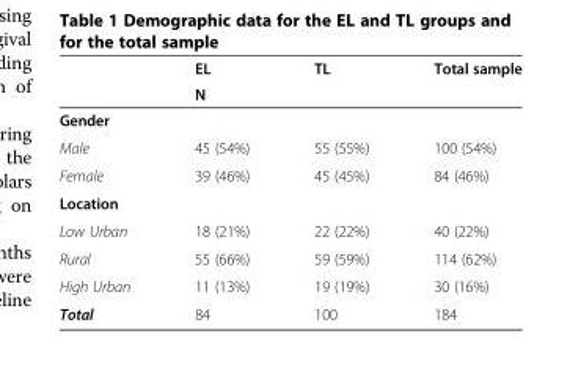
<table><thead><tr><td rowspan="2"></td><td>EL</td><td>TL</td><td>Total sample</td></tr><tr><td colspan="3">N</td></tr></thead><tbody><tr><td colspan="4">Gender</td></tr><tr><td>Male</td><td>45 (54%)</td><td>55 (55%)</td><td>100 (54%)</td></tr><tr><td>Female</td><td>39 (46%)</td><td>45 (45%)</td><td>84 (46%)</td></tr><tr><td colspan="4">Location</td></tr><tr><td>Low Urban</td><td>18 (21%)</td><td>22 (22%)</td><td>40 (22%)</td></tr><tr><td>Rural</td><td>55 (66%)</td><td>59 (59%)</td><td>114 (62%)</td></tr><tr><td>High Urban</td><td>11 (13%)</td><td>19 (19%)</td><td>30 (16%)</td></tr><tr><td>Total</td><td>84</td><td>100</td><td>184</td></tr></tbody></table>